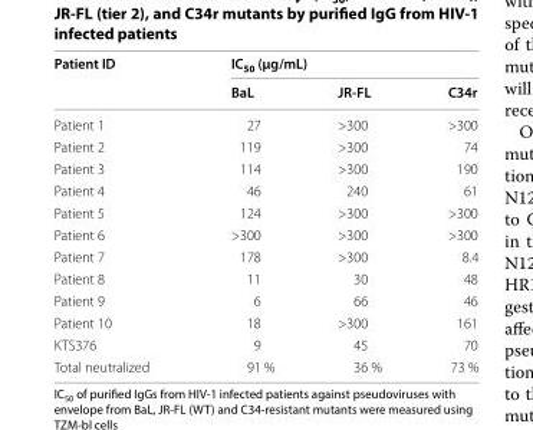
<table><thead><tr><td rowspan="2">Patient ID</td><td colspan="3">IC<sub>50</sub> (µg/mL)</td></tr><tr><td>BaL</td><td>JR‑FL</td><td>C34r</td></tr></thead><tbody><tr><td>Patient 1</td><td>27</td><td>&gt;300</td><td>&gt;300</td></tr><tr><td>Patient 2</td><td>119</td><td>&gt;300</td><td>74</td></tr><tr><td>Patient 3</td><td>114</td><td>&gt;300</td><td>190</td></tr><tr><td>Patient 4</td><td>46</td><td>240</td><td>61</td></tr><tr><td>Patient 5</td><td>124</td><td>&gt;300</td><td>&gt;300</td></tr><tr><td>Patient 6</td><td>&gt;300</td><td>&gt;300</td><td>&gt;300</td></tr><tr><td>Patient 7</td><td>178</td><td>&gt;300</td><td>8.4</td></tr><tr><td>Patient 8</td><td>11</td><td>30</td><td>48</td></tr><tr><td>Patient 9</td><td>6</td><td>66</td><td>46</td></tr><tr><td>Patient 10</td><td>18</td><td>&gt;300</td><td>161</td></tr><tr><td>KTS376</td><td>9</td><td>45</td><td>70</td></tr><tr><td>Total neutralized</td><td>91 %</td><td>36 %</td><td>73 %</td></tr></tbody></table>